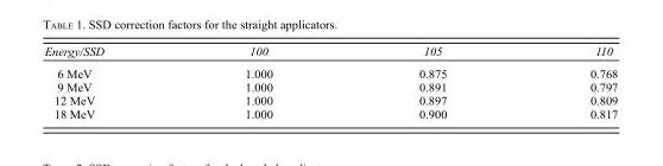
<table><thead><tr><td>Energy/SSD</td><td>100</td><td>105</td><td>110</td></tr></thead><tbody><tr><td>6 MeV</td><td>1.000</td><td>0.875</td><td>0.768</td></tr><tr><td>9 MeV</td><td>1.000</td><td>0.891</td><td>0.797</td></tr><tr><td>12 MeV</td><td>1.000</td><td>0.897</td><td>0.809</td></tr><tr><td>18 MeV</td><td>1.000</td><td>0.900</td><td>0.817</td></tr></tbody></table>